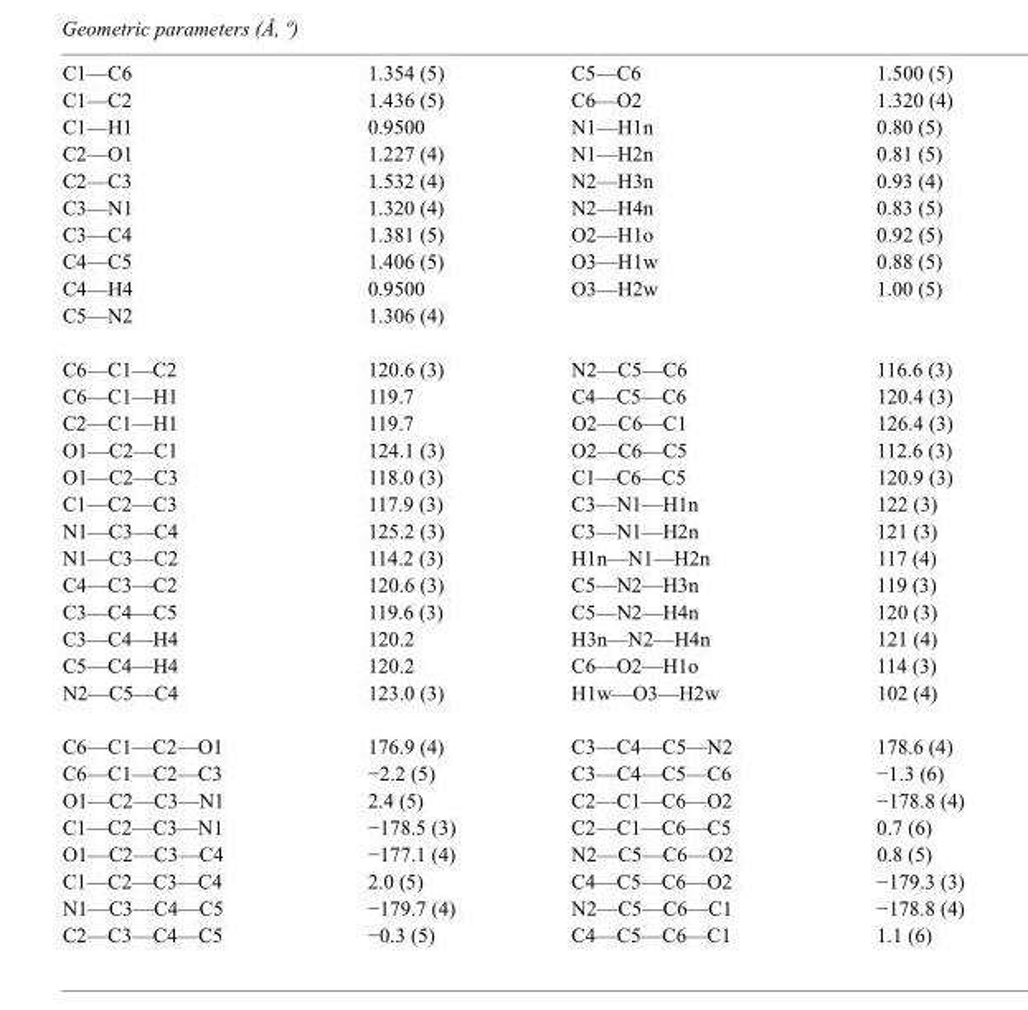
<table><tbody><tr><td>C1—C6</td><td>1.354 (5)</td><td>C5—C6</td><td>1.500 (5)</td></tr><tr><td>C1—C2</td><td>1.436 (5)</td><td>C6—O2</td><td>1.320 (4)</td></tr><tr><td>C1—H1</td><td>0.9500</td><td>N1—H1n</td><td>0.80 (5)</td></tr><tr><td>C2—O1</td><td>1.227 (4)</td><td>N1—H2n</td><td>0.81 (5)</td></tr><tr><td>C2—C3</td><td>1.532 (4)</td><td>N2—H3n</td><td>0.93 (4)</td></tr><tr><td>C3—N1</td><td>1.320 (4)</td><td>N2—H4n</td><td>0.83 (5)</td></tr><tr><td>C3—C4</td><td>1.381 (5)</td><td>O2—H1o</td><td>0.92 (5)</td></tr><tr><td>C4—C5</td><td>1.406 (5)</td><td>O3—H1w</td><td>0.88 (5)</td></tr><tr><td>C4—H4</td><td>0.9500</td><td>O3—H2w</td><td>1.00 (5)</td></tr><tr><td>C5—N2</td><td>1.306 (4)</td><td></td><td></td></tr><tr><td>C6—C1—C2</td><td>120.6 (3)</td><td>N2—C5—C6</td><td>116.6 (3)</td></tr><tr><td>C6—C1—H1</td><td>119.7</td><td>C4—C5—C6</td><td>120.4 (3)</td></tr><tr><td>C2—C1—H1</td><td>119.7</td><td>O2—C6—C1</td><td>126.4 (3)</td></tr><tr><td>O1—C2—C1</td><td>124.1 (3)</td><td>O2—C6—C5</td><td>112.6 (3)</td></tr><tr><td>O1—C2—C3</td><td>118.0 (3)</td><td>C1—C6—C5</td><td>120.9 (3)</td></tr><tr><td>C1—C2—C3</td><td>117.9 (3)</td><td>C3—N1—H1n</td><td>122 (3)</td></tr><tr><td>N1—C3—C4</td><td>125.2 (3)</td><td>C3—N1—H2n</td><td>121 (3)</td></tr><tr><td>N1—C3—C2</td><td>114.2 (3)</td><td>H1n—N1—H2n</td><td>117 (4)</td></tr><tr><td>C4—C3—C2</td><td>120.6 (3)</td><td>C5—N2—H3n</td><td>119 (3)</td></tr><tr><td>C3—C4—C5</td><td>119.6 (3)</td><td>C5—N2—H4n</td><td>120 (3)</td></tr><tr><td>C3—C4—H4</td><td>120.2</td><td>H3n—N2—H4n</td><td>121 (4)</td></tr><tr><td>C5—C4—H4</td><td>120.2</td><td>C6—O2—H1o</td><td>114 (3)</td></tr><tr><td>N2—C5—C4</td><td>123.0 (3)</td><td>H1w—O3—H2w</td><td>102 (4)</td></tr><tr><td>C6—C1—C2—O1</td><td>176.9 (4)</td><td>C3—C4—C5—N2</td><td>178.6 (4)</td></tr><tr><td>C6—C1—C2—C3</td><td>−2.2 (5)</td><td>C3—C4—C5—C6</td><td>−1.3 (6)</td></tr><tr><td>O1—C2—C3—N1</td><td>2.4 (5)</td><td>C2—C1—C6—O2</td><td>−178.8 (4)</td></tr><tr><td>C1—C2—C3—N1</td><td>−178.5 (3)</td><td>C2—C1—C6—C5</td><td>0.7 (6)</td></tr><tr><td>O1—C2—C3—C4</td><td>−177.1 (4)</td><td>N2—C5—C6—O2</td><td>0.8 (5)</td></tr><tr><td>C1—C2—C3—C4</td><td>2.0 (5)</td><td>C4—C5—C6—O2</td><td>−179.3 (3)</td></tr><tr><td>N1—C3—C4—C5</td><td>−179.7 (4)</td><td>N2—C5—C6—C1</td><td>−178.8 (4)</td></tr><tr><td>C2—C3—C4—C5</td><td>−0.3 (5)</td><td>C4—C5—C6—C1</td><td>1.1 (6)</td></tr></tbody></table>